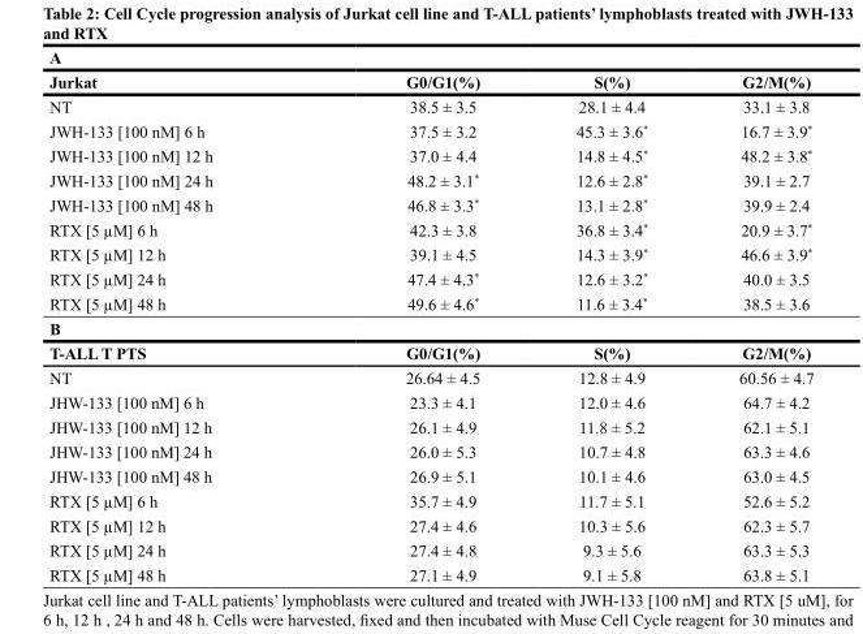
<table><tbody><tr><td colspan="4">A</td></tr><tr><td>Jurkat</td><td>G0/G1(%)</td><td>S(%)</td><td>G2/M(%)</td></tr><tr><td>NT</td><td>38.5 ± 3.5</td><td>28.1 ± 4.4</td><td>33.1 ± 3.8</td></tr><tr><td>JWH-133 [100 nM] 6 h</td><td>37.5 ± 3.2</td><td>45.3 ± 3.6*</td><td>16.7 ± 3.9*</td></tr><tr><td>JWH-133 [100 nM] 12 h</td><td>37.0 ± 4.4</td><td>14.8 ± 4.5*</td><td>48.2 ± 3.8*</td></tr><tr><td>JWH-133 [100 nM] 24 h</td><td>48.2 ± 3.1*</td><td>12.6 ± 2.8*</td><td>39.1 ± 2.7</td></tr><tr><td>JWH-133 [100 nM] 48 h</td><td>46.8 ± 3.3*</td><td>13.1 ± 2.8*</td><td>39.9 ± 2.4</td></tr><tr><td>RTX [5 µM] 6 h</td><td>42.3 ± 3.8</td><td>36.8 ± 3.4*</td><td>20.9 ± 3.7*</td></tr><tr><td>RTX [5 µM] 12 h</td><td>39.1 ± 4.5</td><td>14.3 ± 3.9*</td><td>46.6 ± 3.9*</td></tr><tr><td>RTX [5 µM] 24 h</td><td>47.4 ± 4.3*</td><td>12.6 ± 3.2*</td><td>40.0 ± 3.5</td></tr><tr><td>RTX [5 µM] 48 h</td><td>49.6 ± 4.6*</td><td>11.6 ± 3.4*</td><td>38.5 ± 3.6</td></tr><tr><td colspan="4">B</td></tr><tr><td>T-ALL T PTS</td><td>G0/G1(%)</td><td>S(%)</td><td>G2/M(%)</td></tr><tr><td>NT</td><td>26.64 ± 4.5</td><td>12.8 ± 4.9</td><td>60.56 ± 4.7</td></tr><tr><td>JHW-133 [100 nM] 6 h</td><td>23.3 ± 4.1</td><td>12.0 ± 4.6</td><td>64.7 ± 4.2</td></tr><tr><td>JHW-133 [100 nM] 12 h</td><td>26.1 ± 4.9</td><td>11.8 ± 5.2</td><td>62.1 ± 5.1</td></tr><tr><td>JHW-133 [100 nM] 24 h</td><td>26.0 ± 5.3</td><td>10.7 ± 4.8</td><td>63.3 ± 4.6</td></tr><tr><td>JHW-133 [100 nM] 48 h</td><td>26.9 ± 5.1</td><td>10.1 ± 4.6</td><td>63.0 ± 4.5</td></tr><tr><td>RTX [5 µM] 6 h</td><td>35.7 ± 4.9</td><td>11.7 ± 5.1</td><td>52.6 ± 5.2</td></tr><tr><td>RTX [5 µM] 12 h</td><td>27.4 ± 4.6</td><td>10.3 ± 5.6</td><td>62.3 ± 5.7</td></tr><tr><td>RTX [5 µM] 24 h</td><td>27.4 ± 4.8</td><td>9.3 ± 5.6</td><td>63.3 ± 5.3</td></tr><tr><td>RTX [5 µM] 48 h</td><td>27.1 ± 4.9</td><td>9.1 ± 5.8</td><td>63.8 ± 5.1</td></tr></tbody></table>